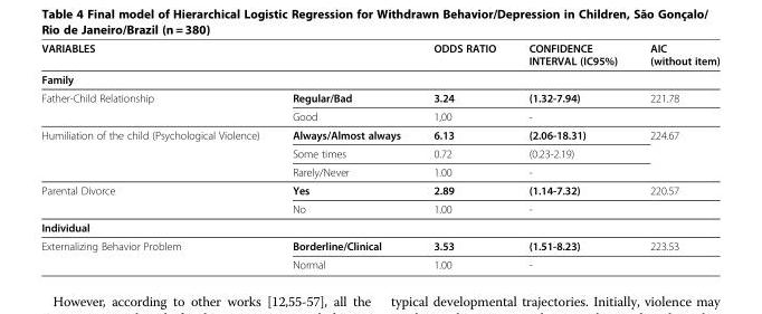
<table><thead><tr><td colspan="2">VARIABLES</td><td rowspan="2">ODDS RATIO</td><td rowspan="2">CONFIDENCE INTERVAL (IC95%)</td><td rowspan="2">AIC (without item)</td></tr><tr><td>Family</td><td></td></tr></thead><tbody><tr><td rowspan="2">Father-Child Relationship</td><td>Regular/Bad</td><td>3.24</td><td>(1.32-7.94)</td><td>221.78</td></tr><tr><td>Good</td><td>1,00</td><td>-</td><td></td></tr><tr><td rowspan="3">Humiliation of the child (Psychological Violence)</td><td>Always/Almost always</td><td>6.13</td><td>(2.06-18.31)</td><td rowspan="3">224.67</td></tr><tr><td>Some times</td><td>0.72</td><td>(0.23-2.19)</td></tr><tr><td>Rarely/Never</td><td>1.00</td><td>-</td></tr><tr><td rowspan="2">Parental Divorce</td><td>Yes</td><td>2.89</td><td>(1.14-7.32)</td><td>220.57</td></tr><tr><td>No</td><td>1.00</td><td>-</td><td></td></tr><tr><td colspan="5">Individual</td></tr><tr><td rowspan="2">Externalizing Behavior Problem</td><td>Borderline/Clinical</td><td>3.53</td><td>(1.51-8.23)</td><td>223.53</td></tr><tr><td>Normal</td><td>1.00</td><td>-</td><td></td></tr></tbody></table>